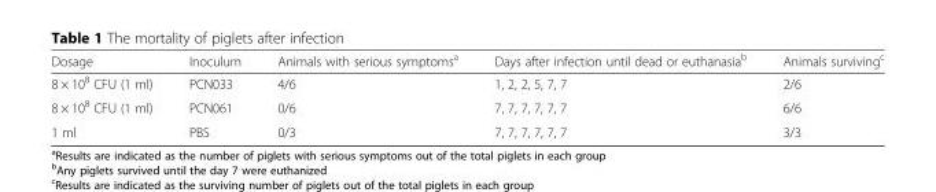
<table><thead><tr><td>Dosage</td><td>Inoculum</td><td>Animals with serious symptoms<sup>a</sup></td><td>Days after infection until dead or euthanasia<sup>b</sup></td><td>Animals surviving<sup>c</sup></td></tr></thead><tbody><tr><td>8 × 10<sup>8</sup> CFU (1 ml)</td><td>PCN033</td><td>4/6</td><td>1, 2, 2, 5, 7, 7</td><td>2/6</td></tr><tr><td>8 × 10<sup>8</sup> CFU (1 ml)</td><td>PCN061</td><td>0/6</td><td>7, 7, 7, 7, 7, 7</td><td>6/6</td></tr><tr><td>1 ml</td><td>PBS</td><td>0/3</td><td>7, 7, 7, 7, 7, 7</td><td>3/3</td></tr></tbody></table>